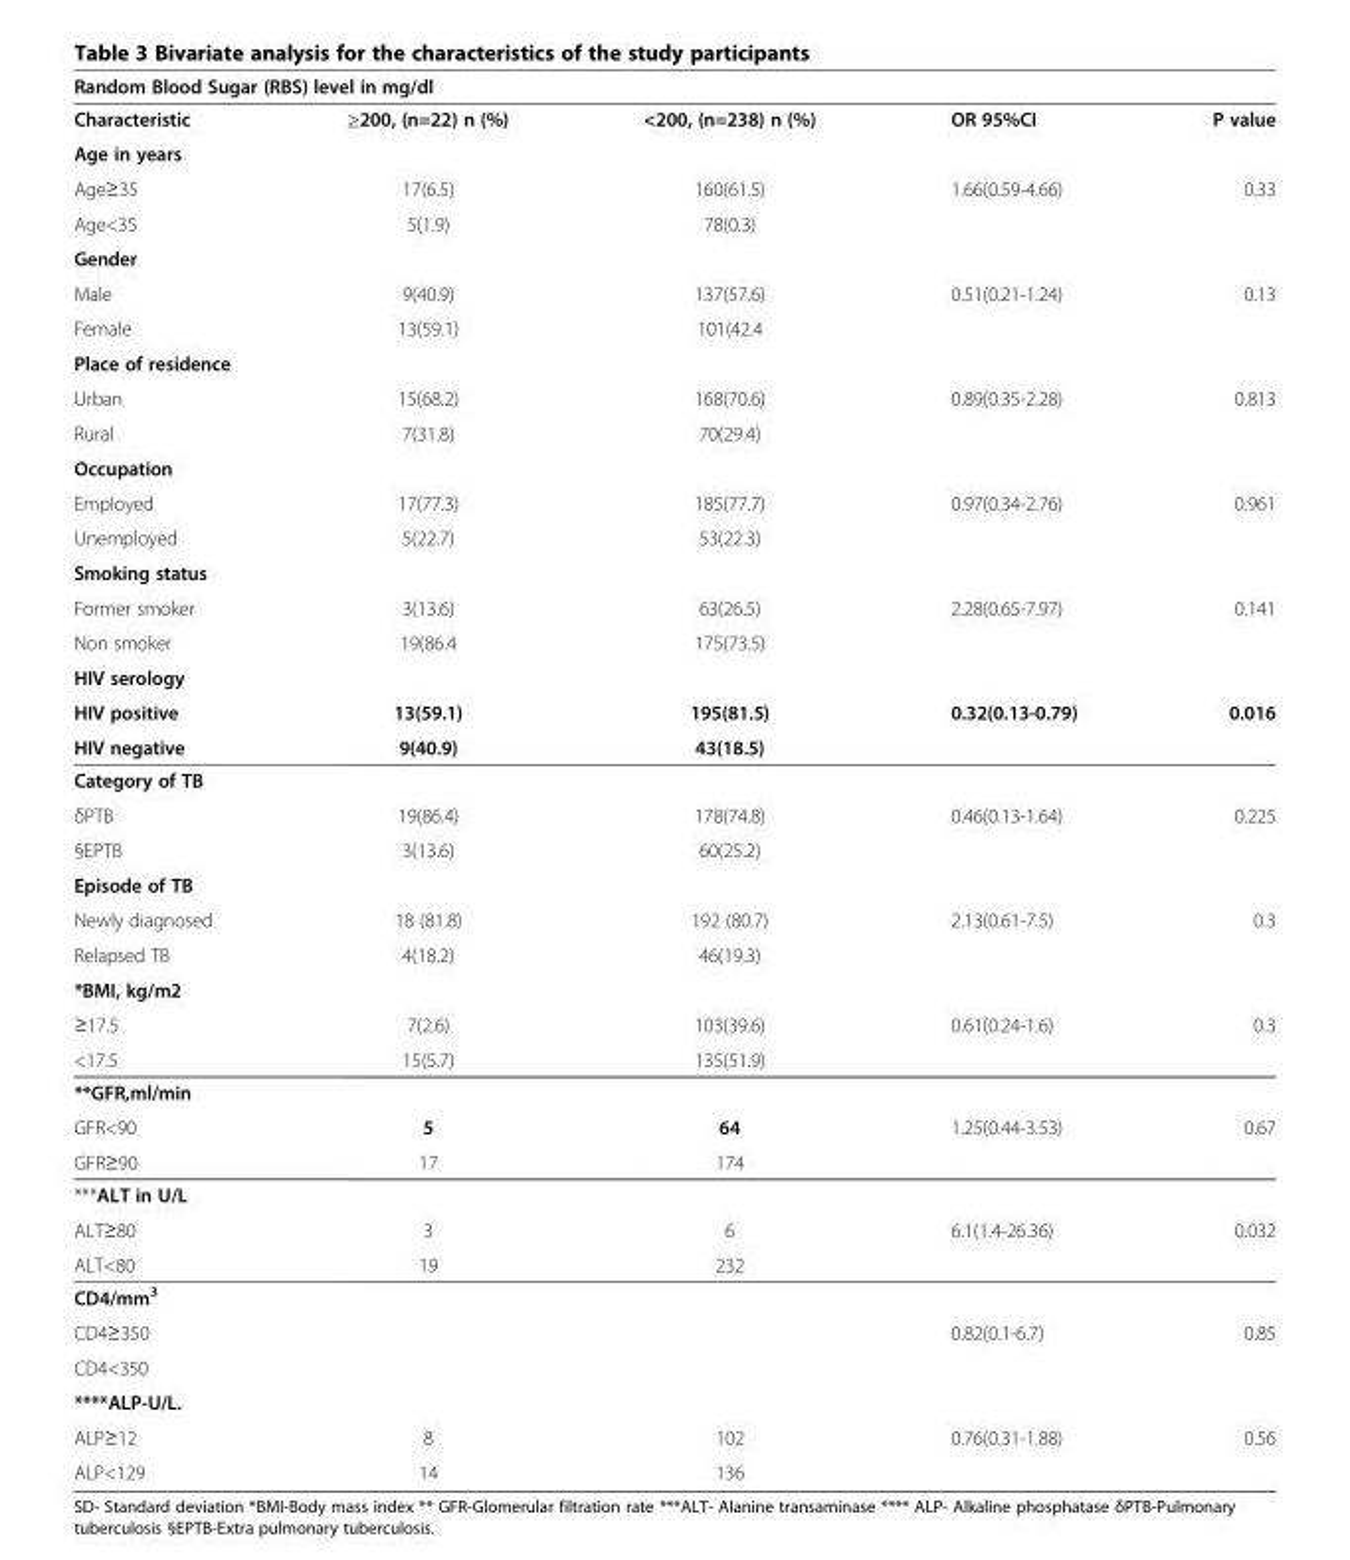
<table><thead><tr><td colspan="5">Random Blood Sugar (RBS) level in mg/dl</td></tr><tr><td>Characteristic</td><td>≥200, (n=22) n (%)</td><td>&lt;200, (n=238) n (%)</td><td>OR 95%CI</td><td>P value</td></tr></thead><tbody><tr><td colspan="5">Age in years</td></tr><tr><td>Age≥35</td><td>17(6.5)</td><td>160(61.5)</td><td>1.66(0.59-4.66)</td><td>0.33</td></tr><tr><td>Age&lt;35</td><td>5(1.9)</td><td>78(0.3)</td><td></td><td></td></tr><tr><td colspan="5">Gender</td></tr><tr><td>Male</td><td>9(40.9)</td><td>137(57.6)</td><td>0.51(0.21-1.24)</td><td>0.13</td></tr><tr><td>Female</td><td>13(59.1)</td><td>101(42.4</td><td></td><td></td></tr><tr><td colspan="5">Place of residence</td></tr><tr><td>Urban</td><td>15(68.2)</td><td>168(70.6)</td><td>0.89(0.35-2.28)</td><td>0.813</td></tr><tr><td>Rural</td><td>7(31.8)</td><td>70(29.4)</td><td></td><td></td></tr><tr><td colspan="5">Occupation</td></tr><tr><td>Employed</td><td>17(77.3)</td><td>185(77.7)</td><td>0.97(0.34-2.76)</td><td>0.961</td></tr><tr><td>Unemployed</td><td>5(22.7)</td><td>53(22.3)</td><td></td><td></td></tr><tr><td colspan="5">Smoking status</td></tr><tr><td>Former smoker</td><td>3(13.6)</td><td>63(26.5)</td><td>2.28(0.65-7.97)</td><td>0.141</td></tr><tr><td>Non smoker</td><td>19(86.4</td><td>175(73.5)</td><td></td><td></td></tr><tr><td colspan="5">HIV serology</td></tr><tr><td>HIV positive</td><td>13(59.1)</td><td>195(81.5)</td><td>0.32(0.13-0.79)</td><td>0.016</td></tr><tr><td>HIV negative</td><td>9(40.9)</td><td>43(18.5)</td><td></td><td></td></tr><tr><td colspan="5">Category of TB</td></tr><tr><td>δPTB</td><td>19(86.4)</td><td>178(74.8)</td><td>0.46(0.13-1.64)</td><td>0.225</td></tr><tr><td>§EPTB</td><td>3(13.6)</td><td>60(25.2)</td><td></td><td></td></tr><tr><td colspan="5">Episode of TB</td></tr><tr><td>Newly diagnosed</td><td>18 (81.8)</td><td>192 (80.7)</td><td>2.13(0.61-7.5)</td><td>0.3</td></tr><tr><td>Relapsed TB</td><td>4(18.2)</td><td>46(19.3)</td><td></td><td></td></tr><tr><td colspan="5">*BMI, kg/m2</td></tr><tr><td>≥17.5</td><td>7(2.6)</td><td>103(39.6)</td><td>0.61(0.24-1.6)</td><td>0.3</td></tr><tr><td>&lt;17.5</td><td>15(5.7)</td><td>135(51.9)</td><td></td><td></td></tr><tr><td colspan="5">**GFR,ml/min</td></tr><tr><td>GFR&lt;90</td><td>5</td><td>64</td><td>1.25(0.44-3.53)</td><td>0.67</td></tr><tr><td>GFR≥90</td><td>17</td><td>174</td><td></td><td></td></tr><tr><td colspan="5">***ALT in U/L</td></tr><tr><td>ALT≥80</td><td>3</td><td>6</td><td>6.1(1.4-26.36)</td><td>0.032</td></tr><tr><td>ALT&lt;80</td><td>19</td><td>232</td><td></td><td></td></tr><tr><td colspan="5">CD4/mm<sup>3</sup></td></tr><tr><td>CD4≥350</td><td></td><td></td><td>0.82(0.1-6.7)</td><td>0.85</td></tr><tr><td colspan="5">CD4&lt;350</td></tr><tr><td colspan="5">****ALP-U/L.</td></tr><tr><td>ALP≥12</td><td>8</td><td>102</td><td>0.76(0.31-1.88)</td><td>0.56</td></tr><tr><td>ALP&lt;129</td><td>14</td><td>136</td><td></td><td></td></tr></tbody></table>